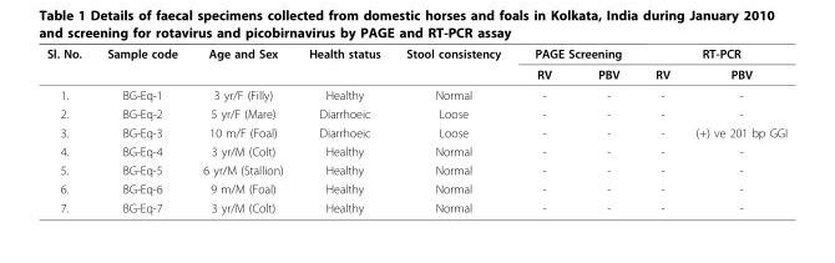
<table><thead><tr><td rowspan="2">Sl. No.</td><td rowspan="2">Sample code</td><td rowspan="2">Age and Sex</td><td rowspan="2">Health status</td><td rowspan="2">Stool consistency</td><td colspan="2">PAGE Screening</td><td colspan="2">RT-PCR</td></tr><tr><td>RV</td><td>PBV</td><td>RV</td><td>PBV</td></tr></thead><tbody><tr><td>1.</td><td>BG-Eq-1</td><td>3 yr/F (Filly)</td><td>Healthy</td><td>Normal</td><td>-</td><td>-</td><td>-</td><td>-</td></tr><tr><td>2.</td><td>BG-Eq-2</td><td>5 yr/F (Mare)</td><td>Diarrhoeic</td><td>Loose</td><td>-</td><td>-</td><td>-</td><td>-</td></tr><tr><td>3.</td><td>BG-Eq-3</td><td>10 m/F (Foal)</td><td>Diarrhoeic</td><td>Loose</td><td>-</td><td>-</td><td>-</td><td>(+) ve 201 bp GGI</td></tr><tr><td>4.</td><td>BG-Eq-4</td><td>3 yr/M (Colt)</td><td>Healthy</td><td>Normal</td><td>-</td><td>-</td><td>-</td><td>-</td></tr><tr><td>5.</td><td>BG-Eq-5</td><td>6 yr/M (Stallion)</td><td>Healthy</td><td>Normal</td><td>-</td><td>-</td><td>-</td><td>-</td></tr><tr><td>6.</td><td>BG-Eq-6</td><td>9 m/M (Foal)</td><td>Healthy</td><td>Normal</td><td>-</td><td>-</td><td>-</td><td>-</td></tr><tr><td>7.</td><td>BG-Eq-7</td><td>3 yr/M (Colt)</td><td>Healthy</td><td>Normal</td><td>-</td><td>-</td><td>-</td><td>-</td></tr></tbody></table>